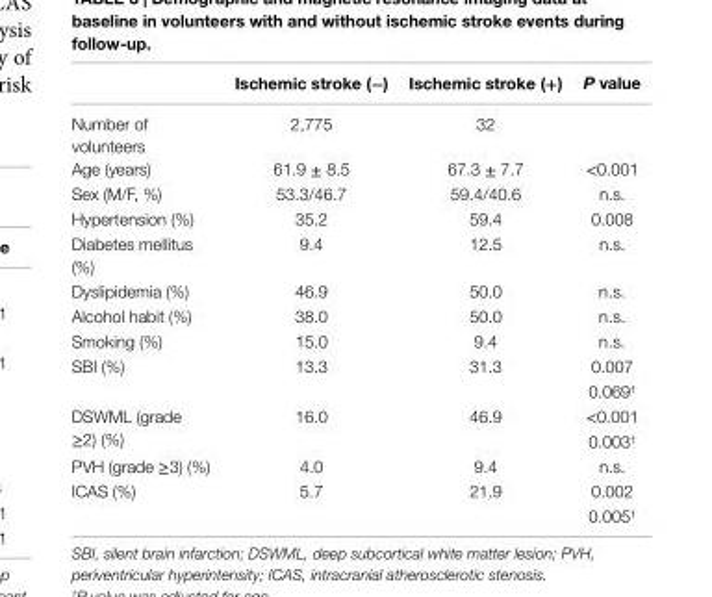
<table><thead><tr><td></td><td>ischemic stroke (−)</td><td>ischemic stroke (+)</td><td>P value</td></tr></thead><tbody><tr><td>Number of volunteers</td><td>2,775</td><td>32</td><td></td></tr><tr><td>Age (years)</td><td>61.9 ± 8.5</td><td>67.3 ± 7.7</td><td>&lt;0.001</td></tr><tr><td>Sex (M/F, %)</td><td>53.3/46.7</td><td>59.4/40.6</td><td>n.s.</td></tr><tr><td>Hypertension (%)</td><td>35.2</td><td>59.4</td><td>0.008</td></tr><tr><td>Diabetes mellitus (%)</td><td>9.4</td><td>12.5</td><td>n.s.</td></tr><tr><td>Dyslipidemia (%)</td><td>46.9</td><td>50.0</td><td>n.s.</td></tr><tr><td>Alcohol habit (%)</td><td>38.0</td><td>50.0</td><td>n.s.</td></tr><tr><td>Smoking (%)</td><td>15.0</td><td>9.4</td><td>n.s.</td></tr><tr><td>SBI (%)</td><td>13.3</td><td>31.3</td><td>0.007 0.069<sup>†</sup></td></tr><tr><td>DSWML (grade ≥2) (%)</td><td>16.0</td><td>46.9</td><td>&lt;0.001 0.003<sup>†</sup></td></tr><tr><td>PVH (grade ≥3) (%)</td><td>4.0</td><td>9.4</td><td>n.s.</td></tr><tr><td>ICAS (%)</td><td>5.7</td><td>21.9</td><td>0.002 0.005<sup>†</sup></td></tr></tbody></table>